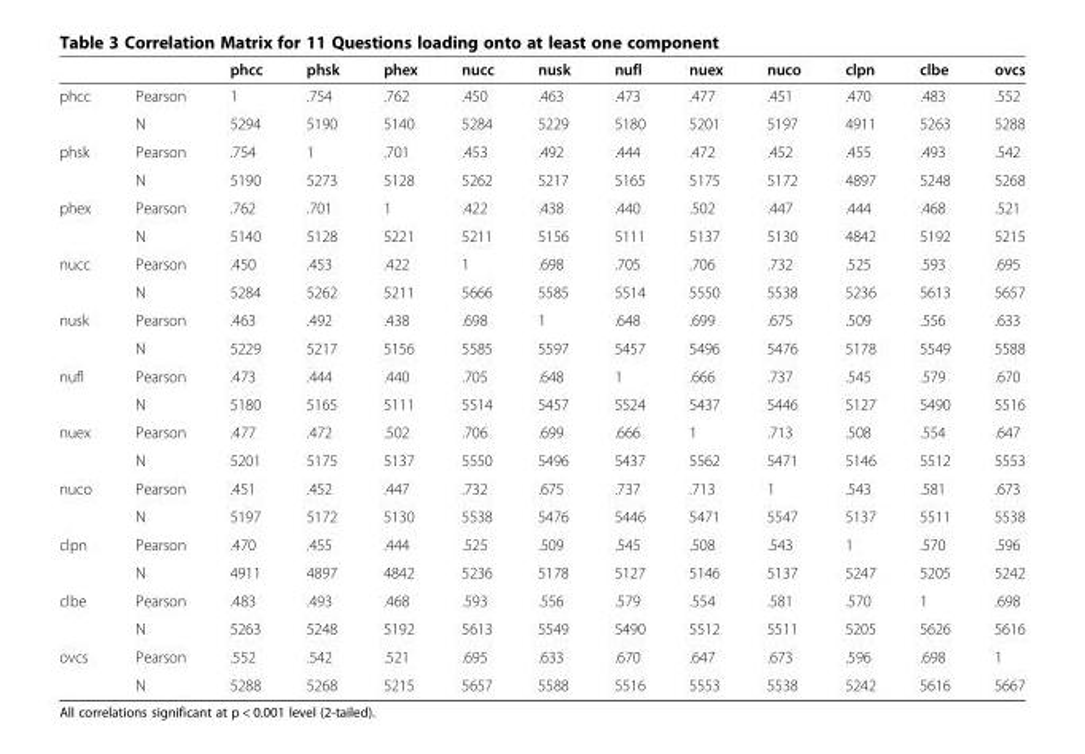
<table><thead><tr><td></td><td></td><td>phcc</td><td>phsk</td><td>phex</td><td>nucc</td><td>nusk</td><td>nufl</td><td>nuex</td><td>nuco</td><td>clpn</td><td>clbe</td><td>ovcs</td></tr></thead><tbody><tr><td rowspan="2">phcc</td><td>Pearson</td><td>1</td><td>.754</td><td>.762</td><td>.450</td><td>.463</td><td>.473</td><td>.477</td><td>.451</td><td>.470</td><td>.483</td><td>.552</td></tr><tr><td>N</td><td>5294</td><td>5190</td><td>5140</td><td>5284</td><td>5229</td><td>5180</td><td>5201</td><td>5197</td><td>4911</td><td>5263</td><td>5288</td></tr><tr><td rowspan="2">phsk</td><td>Pearson</td><td>.754</td><td>1</td><td>.701</td><td>.453</td><td>.492</td><td>.444</td><td>.472</td><td>.452</td><td>.455</td><td>.493</td><td>.542</td></tr><tr><td>N</td><td>5190</td><td>5273</td><td>5128</td><td>5262</td><td>5217</td><td>5165</td><td>5175</td><td>5172</td><td>4897</td><td>5248</td><td>5268</td></tr><tr><td rowspan="2">phex</td><td>Pearson</td><td>.762</td><td>.701</td><td>1</td><td>.422</td><td>.438</td><td>.440</td><td>.502</td><td>.447</td><td>.444</td><td>.468</td><td>.521</td></tr><tr><td>N</td><td>5140</td><td>5128</td><td>5221</td><td>5211</td><td>5156</td><td>5111</td><td>5137</td><td>5130</td><td>4842</td><td>5192</td><td>5215</td></tr><tr><td rowspan="2">nucc</td><td>Pearson</td><td>.450</td><td>.453</td><td>.422</td><td>1</td><td>.698</td><td>.705</td><td>.706</td><td>.732</td><td>.525</td><td>.593</td><td>.695</td></tr><tr><td>N</td><td>5284</td><td>5262</td><td>5211</td><td>5666</td><td>5585</td><td>5514</td><td>5550</td><td>5538</td><td>5236</td><td>5613</td><td>5657</td></tr><tr><td rowspan="2">nusk</td><td>Pearson</td><td>.463</td><td>.492</td><td>.438</td><td>.698</td><td>1</td><td>.648</td><td>.699</td><td>.675</td><td>.509</td><td>.556</td><td>.633</td></tr><tr><td>N</td><td>5229</td><td>5217</td><td>5156</td><td>5585</td><td>5597</td><td>5457</td><td>5496</td><td>5476</td><td>5178</td><td>5549</td><td>5588</td></tr><tr><td rowspan="2">nufl</td><td>Pearson</td><td>.473</td><td>.444</td><td>.440</td><td>.705</td><td>.648</td><td>1</td><td>.666</td><td>.737</td><td>.545</td><td>.579</td><td>.670</td></tr><tr><td>N</td><td>5180</td><td>5165</td><td>5111</td><td>5514</td><td>5457</td><td>5524</td><td>5437</td><td>5446</td><td>5127</td><td>5490</td><td>5516</td></tr><tr><td rowspan="2">nuex</td><td>Pearson</td><td>.477</td><td>.472</td><td>.502</td><td>.706</td><td>.699</td><td>.666</td><td>1</td><td>.713</td><td>.508</td><td>.554</td><td>.647</td></tr><tr><td>N</td><td>5201</td><td>5175</td><td>5137</td><td>5550</td><td>5496</td><td>5437</td><td>5562</td><td>5471</td><td>5146</td><td>5512</td><td>5553</td></tr><tr><td rowspan="2">nuco</td><td>Pearson</td><td>.451</td><td>.452</td><td>.447</td><td>.732</td><td>.675</td><td>.737</td><td>.713</td><td>1</td><td>.543</td><td>.581</td><td>.673</td></tr><tr><td>N</td><td>5197</td><td>5172</td><td>5130</td><td>5538</td><td>5476</td><td>5446</td><td>5471</td><td>5547</td><td>5137</td><td>5511</td><td>5538</td></tr><tr><td rowspan="2">clpn</td><td>Pearson</td><td>.470</td><td>.455</td><td>.444</td><td>.525</td><td>.509</td><td>.545</td><td>.508</td><td>.543</td><td>1</td><td>.570</td><td>.596</td></tr><tr><td>N</td><td>4911</td><td>4897</td><td>4842</td><td>5236</td><td>5178</td><td>5127</td><td>5146</td><td>5137</td><td>5247</td><td>5205</td><td>5242</td></tr><tr><td rowspan="2">clbe</td><td>Pearson</td><td>.483</td><td>.493</td><td>.468</td><td>.593</td><td>.556</td><td>.579</td><td>.554</td><td>.581</td><td>.570</td><td>1</td><td>.698</td></tr><tr><td>N</td><td>5263</td><td>5248</td><td>5192</td><td>5613</td><td>5549</td><td>5490</td><td>5512</td><td>5511</td><td>5205</td><td>5626</td><td>5616</td></tr><tr><td rowspan="2">ovcs</td><td>Pearson</td><td>.552</td><td>.542</td><td>.521</td><td>.695</td><td>.633</td><td>.670</td><td>.647</td><td>.673</td><td>.596</td><td>.698</td><td>1</td></tr><tr><td>N</td><td>5288</td><td>5268</td><td>5215</td><td>5657</td><td>5588</td><td>5516</td><td>5553</td><td>5538</td><td>5242</td><td>5616</td><td>5667</td></tr></tbody></table>